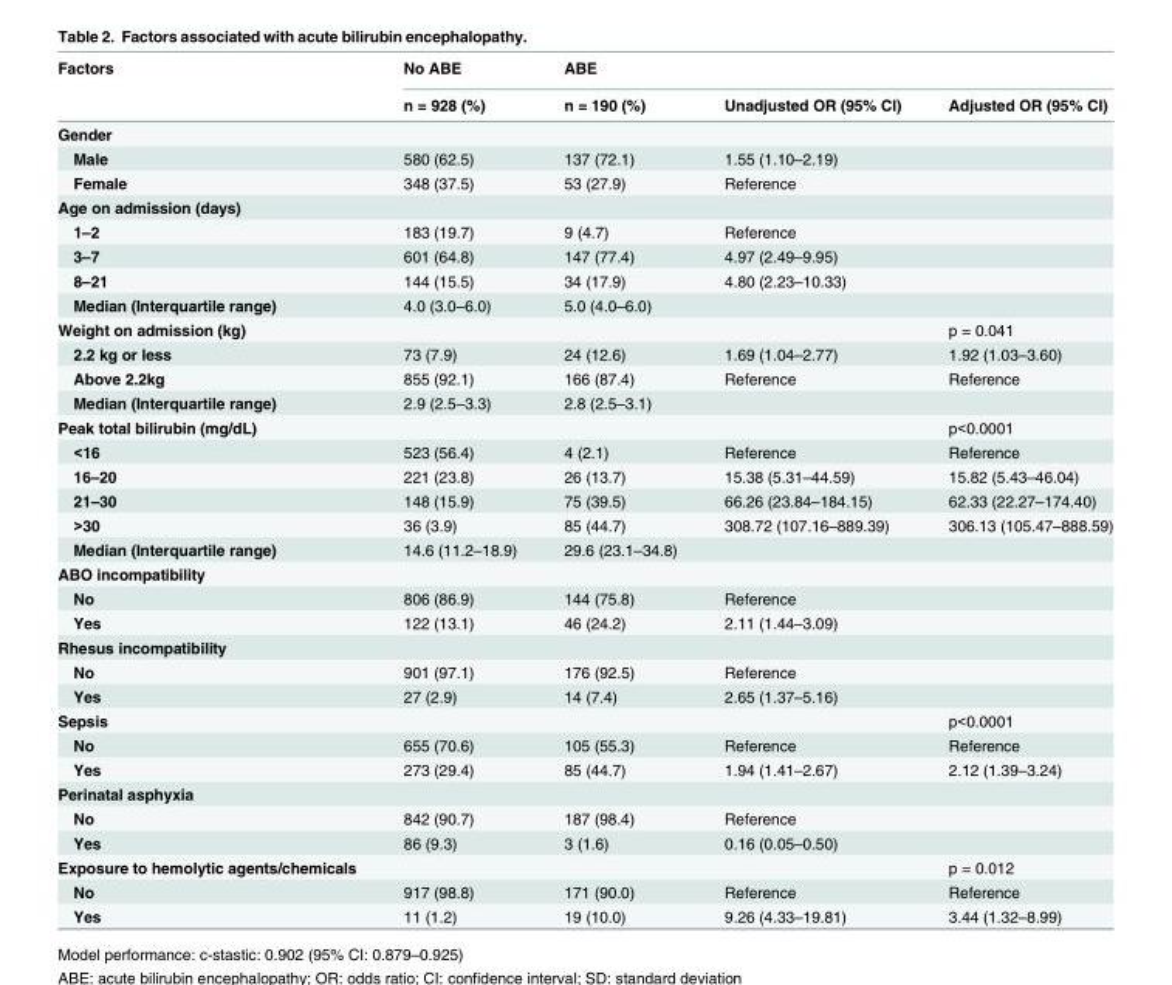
<table><thead><tr><td rowspan="2">Factors</td><td rowspan="2">No ABE n = 928 (%)</td><td rowspan="2">ABE n = 190 (%)</td><td rowspan="2">Unadjusted OR (95% CI)</td><td rowspan="2">Adjusted OR (95% CI)</td></tr><tr></tr></thead><tbody><tr><td colspan="5">Gender</td></tr><tr><td>Male</td><td>580 (62.5)</td><td>137 (72.1)</td><td>1.55 (1.10–2.19)</td><td></td></tr><tr><td>Female</td><td>348 (37.5)</td><td>53 (27.9)</td><td>Reference</td><td></td></tr><tr><td colspan="5">Age on admission (days)</td></tr><tr><td>1–2</td><td>183 (19.7)</td><td>9 (4.7)</td><td>Reference</td><td></td></tr><tr><td>3–7</td><td>601 (64.8)</td><td>147 (77.4)</td><td>4.97 (2.49–9.95)</td><td></td></tr><tr><td>8–21</td><td>144 (15.5)</td><td>34 (17.9)</td><td>4.80 (2.23–10.33)</td><td></td></tr><tr><td>Median (Interquartile range)</td><td>4.0 (3.0–6.0)</td><td>5.0 (4.0–6.0)</td><td></td><td></td></tr><tr><td>Weight on admission (kg)</td><td></td><td></td><td></td><td>p = 0.041</td></tr><tr><td>2.2 kg or less</td><td>73 (7.9)</td><td>24 (12.6)</td><td>1.69 (1.04–2.77)</td><td>1.92 (1.03–3.60)</td></tr><tr><td>Above 2.2kg</td><td>855 (92.1)</td><td>166 (87.4)</td><td>Reference</td><td>Reference</td></tr><tr><td>Median (Interquartile range)</td><td>2.9 (2.5–3.3)</td><td>2.8 (2.5–3.1)</td><td></td><td></td></tr><tr><td>Peak total bilirubin (mg/dL)</td><td></td><td></td><td></td><td>p&lt;0.0001</td></tr><tr><td>&lt;16</td><td>523 (56.4)</td><td>4 (2.1)</td><td>Reference</td><td>Reference</td></tr><tr><td>16–20</td><td>221 (23.8)</td><td>26 (13.7)</td><td>15.38 (5.31–44.59)</td><td>15.82 (5.43–46.04)</td></tr><tr><td>21–30</td><td>148 (15.9)</td><td>75 (39.5)</td><td>66.26 (23.84–184.15)</td><td>62.33 (22.27–174.40)</td></tr><tr><td>&gt;30</td><td>36 (3.9)</td><td>85 (44.7)</td><td>308.72 (107.16–889.39)</td><td>306.13 (105.47–888.59)</td></tr><tr><td>Median (Interquartile range)</td><td>14.6 (11.2–18.9)</td><td>29.6 (23.1–34.8)</td><td></td><td></td></tr><tr><td colspan="5">ABO incompatibility</td></tr><tr><td>No</td><td>806 (86.9)</td><td>144 (75.8)</td><td>Reference</td><td></td></tr><tr><td>Yes</td><td>122 (13.1)</td><td>46 (24.2)</td><td>2.11 (1.44–3.09)</td><td></td></tr><tr><td colspan="5">Rhesus incompatibility</td></tr><tr><td>No</td><td>901 (97.1)</td><td>176 (92.5)</td><td>Reference</td><td></td></tr><tr><td>Yes</td><td>27 (2.9)</td><td>14 (7.4)</td><td>2.65 (1.37–5.16)</td><td></td></tr><tr><td>Sepsis</td><td></td><td></td><td></td><td>p&lt;0.0001</td></tr><tr><td>No</td><td>655 (70.6)</td><td>105 (55.3)</td><td>Reference</td><td>Reference</td></tr><tr><td>Yes</td><td>273 (29.4)</td><td>85 (44.7)</td><td>1.94 (1.41–2.67)</td><td>2.12 (1.39–3.24)</td></tr><tr><td colspan="5">Perinatal asphyxia</td></tr><tr><td>No</td><td>842 (90.7)</td><td>187 (98.4)</td><td>Reference</td><td></td></tr><tr><td>Yes</td><td>86 (9.3)</td><td>3 (1.6)</td><td>0.16 (0.05–0.50)</td><td></td></tr><tr><td>Exposure to hemolytic agents/chemicals</td><td></td><td></td><td></td><td>p = 0.012</td></tr><tr><td>No</td><td>917 (98.8)</td><td>171 (90.0)</td><td>Reference</td><td>Reference</td></tr><tr><td>Yes</td><td>11 (1.2)</td><td>19 (10.0)</td><td>9.26 (4.33–19.81)</td><td>3.44 (1.32–8.99)</td></tr></tbody></table>